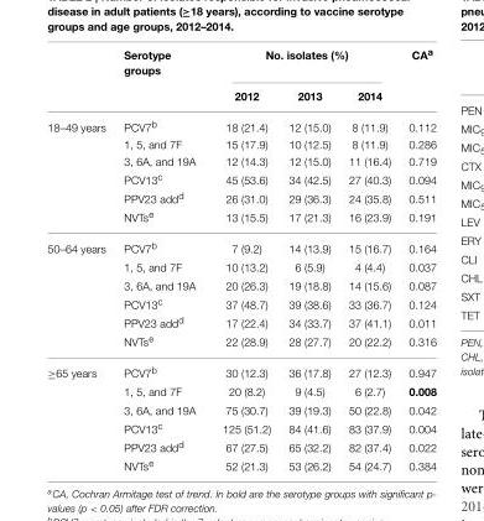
<table><thead><tr><td rowspan="2"></td><td rowspan="2">Serotype groups</td><td colspan="3">No. isolates (%)</td><td rowspan="2">CA<sup>a</sup></td></tr><tr><td>2012</td><td>2013</td><td>2014</td></tr></thead><tbody><tr><td rowspan="6">18–49 years</td><td>PCV7<sup>b</sup></td><td>18 (21.4)</td><td>12 (15.0)</td><td>8 (11.9)</td><td>0.112</td></tr><tr><td>1, 5, and 7F</td><td>15 (17.9)</td><td>10 (12.5)</td><td>8 (11.9)</td><td>0.286</td></tr><tr><td>3, 6A, and 19A</td><td>12 (14.3)</td><td>12 (15.0)</td><td>11 (16.4)</td><td>0.719</td></tr><tr><td>PCV13<sup>c</sup></td><td>45 (53.6)</td><td>34 (42.5)</td><td>27 (40.3)</td><td>0.094</td></tr><tr><td>PPV23 add<sup>d</sup></td><td>26 (31.0)</td><td>29 (36.3)</td><td>24 (35.8)</td><td>0.511</td></tr><tr><td>NVTs<sup>e</sup></td><td>13 (15.5)</td><td>17 (21.3)</td><td>16 (23.9)</td><td>0.191</td></tr><tr><td rowspan="6">50–64 years</td><td>PCV7<sup>b</sup></td><td>7 (9.2)</td><td>14 (13.9)</td><td>15 (16.7)</td><td>0.164</td></tr><tr><td>1, 5, and 7F</td><td>10 (13.2)</td><td>6 (5.9)</td><td>4 (4.4)</td><td>0.037</td></tr><tr><td>3, 6A, and 19A</td><td>20 (26.3)</td><td>19 (18.8)</td><td>14 (15.6)</td><td>0.087</td></tr><tr><td>PCV13<sup>c</sup></td><td>37 (48.7)</td><td>39 (38.6)</td><td>33 (36.7)</td><td>0.124</td></tr><tr><td>PPV23 add<sup>d</sup></td><td>17 (22.4)</td><td>34 (33.7)</td><td>37 (41.1)</td><td>0.011</td></tr><tr><td>NVTs<sup>e</sup></td><td>22 (28.9)</td><td>28 (27.7)</td><td>20 (22.2)</td><td>0.316</td></tr><tr><td rowspan="6">≥65 years</td><td>PCV7<sup>b</sup></td><td>30 (12.3)</td><td>36 (17.8)</td><td>27 (12.3)</td><td>0.947</td></tr><tr><td>1, 5, and 7F</td><td>20 (8.2)</td><td>9 (4.5)</td><td>6 (2.7)</td><td>0.008</td></tr><tr><td>3, 6A, and 19A</td><td>75 (30.7)</td><td>39 (19.3)</td><td>50 (22.8)</td><td>0.042</td></tr><tr><td>PCV13<sup>c</sup></td><td>125 (51.2)</td><td>84 (41.6)</td><td>83 (37.9)</td><td>0.004</td></tr><tr><td>PPV23 add<sup>d</sup></td><td>67 (27.5)</td><td>65 (32.2)</td><td>82 (37.4)</td><td>0.022</td></tr><tr><td>NVTs<sup>e</sup></td><td>52 (21.3)</td><td>53 (26.2)</td><td>54 (24.7)</td><td>0.384</td></tr></tbody></table>